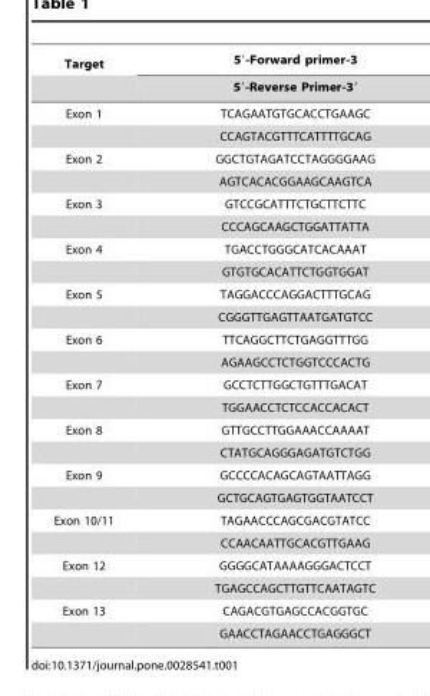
<table><thead><tr><td rowspan="2">Target</td><td rowspan="2">5′-Forward primer-3 5′-Reverse Primer-3′</td></tr><tr></tr></thead><tbody><tr><td rowspan="2">Exon 1</td><td>TCAGAATGTGCACCTGAAGC</td></tr><tr><td>CCAGTACGTTTCATTTTGCAG</td></tr><tr><td rowspan="2">Exon 2</td><td>GGCTGTAGATCCTAGGGGAAG</td></tr><tr><td>AGTCACACGGAAGCAAGTCA</td></tr><tr><td rowspan="2">Exon 3</td><td>GTCCGCATTTCTGCTTCTTC</td></tr><tr><td>CCCAGCAAGCTGGATTATTA</td></tr><tr><td rowspan="2">Exon 4</td><td>TGACCTGGGCATCACAAAT</td></tr><tr><td>GTGTGCACATTCTGGTGGAT</td></tr><tr><td rowspan="2">Exon 5</td><td>TAGGACCCAGGACTTTGCAG</td></tr><tr><td>CGGGTTGAGTTAATGATGTCC</td></tr><tr><td rowspan="2">Exon 6</td><td>TTCAGGCTTCTGAGGTTTGG</td></tr><tr><td>AGAAGCCTCTGGTCCCACTG</td></tr><tr><td rowspan="2">Exon 7</td><td>GCCTCTTGGCTGTTTGACAT</td></tr><tr><td>TGGAACCTCTCCACCACACT</td></tr><tr><td rowspan="2">Exon 8</td><td>GTTGCCTTGGAAACCAAAAT</td></tr><tr><td>CTATGCAGGGAGATGTCTGG</td></tr><tr><td rowspan="2">Exon 9</td><td>GCCCCACAGCAGTAATTAGG</td></tr><tr><td>GCTGCAGTGAGTGGTAATCCT</td></tr><tr><td rowspan="2">Exon 10/11</td><td>TAGAACCCAGCGACGTATCC</td></tr><tr><td>CCAACAATTGCACGTTGAAG</td></tr><tr><td rowspan="2">Exon 12</td><td>GGGGCATAAAAGGGACTCCT</td></tr><tr><td>TGAGCCAGCTTGTTCAATAGTC</td></tr><tr><td rowspan="2">Exon 13</td><td>CAGACGTGAGCCACGGTGC</td></tr><tr><td>GAACCTAGAACCTGAGGGCT</td></tr></tbody></table>